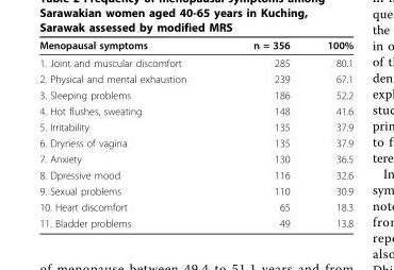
<table><thead><tr><td>Menopausal symptoms</td><td>n = 356</td><td>100%</td></tr></thead><tbody><tr><td>1. Joint and muscular discomfort</td><td>285</td><td>80.1</td></tr><tr><td>2. Physical and mental exhaustion</td><td>239</td><td>67.1</td></tr><tr><td>3. Sleeping problems</td><td>186</td><td>52.2</td></tr><tr><td>4. Hot flushes, sweating</td><td>148</td><td>41.6</td></tr><tr><td>5. Irritability</td><td>135</td><td>37.9</td></tr><tr><td>6. Dryness of vagina</td><td>135</td><td>37.9</td></tr><tr><td>7. Anxiety</td><td>130</td><td>36.5</td></tr><tr><td>8. Dpressive mood</td><td>116</td><td>32.6</td></tr><tr><td>9. Sexual problems</td><td>110</td><td>30.9</td></tr><tr><td>10. Heart discomfort</td><td>65</td><td>18.3</td></tr><tr><td>11. Bladder problems</td><td>49</td><td>13.8</td></tr></tbody></table>